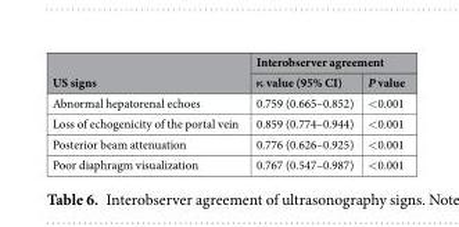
<table><thead><tr><td rowspan="2">US signs</td><td colspan="2">Interobserver agreement</td></tr><tr><td>κ value (95% CI)</td><td>P value</td></tr></thead><tbody><tr><td>Abnormal hepatorenal echoes</td><td>0.759 (0.665–0.852)</td><td>&lt;0.001</td></tr><tr><td>Loss of echogenicity of the portal vein</td><td>0.859 (0.774–0.944)</td><td>&lt;0.001</td></tr><tr><td>Posterior beam attenuation</td><td>0.776 (0.626–0.925)</td><td>&lt;0.001</td></tr><tr><td>Poor diaphragm visualization</td><td>0.767 (0.547–0.987)</td><td>&lt;0.001</td></tr></tbody></table>